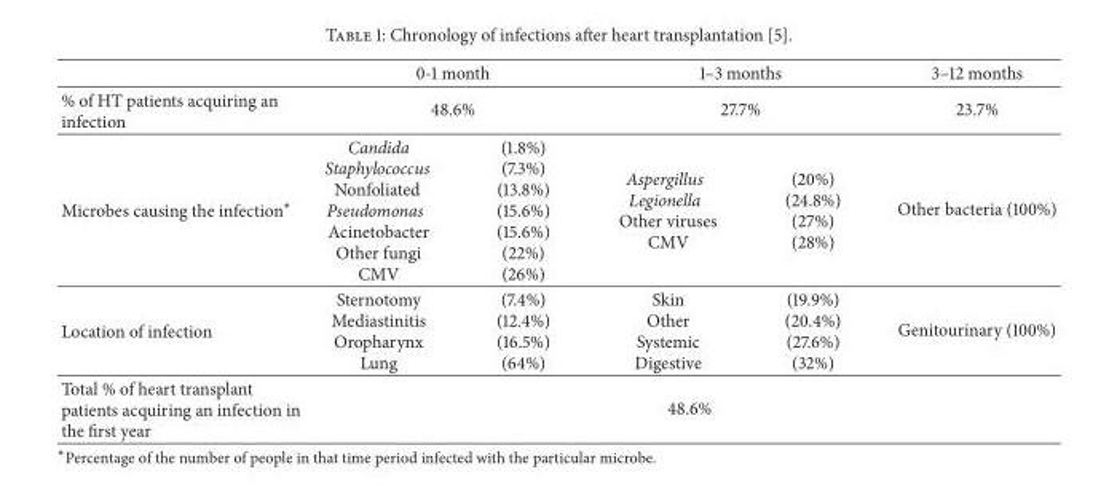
<table><thead><tr><td rowspan="3">% of HT patients acquiring an infection Microbes causing the infection∗</td><td rowspan="2" colspan="2">0-1 month 48.6%</td><td rowspan="2" colspan="2">1–3 months 27.7%</td><td rowspan="3">3–12 months 23.7% Other bacteria (100%)</td></tr><tr></tr><tr><td>Candida Staphylococcus Nonfoliated Pseudomonas Acinetobacter Other fungi CMV</td><td>(1.8%) (7.3%) (13.8%) (15.6%) (15.6%) (22%) (26%)</td><td>Aspergillus Legionella Other viruses CMV</td><td>(20%) (24.8%) (27%) (28%)</td></tr></thead><tbody><tr><td>Location of infection</td><td>Sternotomy Mediastinitis Oropharynx Lung</td><td>(7.4%) (12.4%) (16.5%) (64%)</td><td>Skin Other Systemic Digestive</td><td>(19.9%) (20.4%) (27.6%) (32%)</td><td>Genitourinary (100%)</td></tr><tr><td>Total % of heart transplant patients acquiring an infection in the first year</td><td colspan="5">48.6%</td></tr></tbody></table>